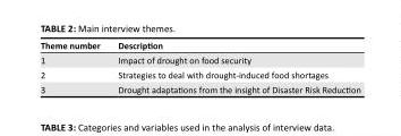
<table><thead><tr><td>Theme number</td><td>Description</td></tr></thead><tbody><tr><td>1</td><td>Impact of drought on food security</td></tr><tr><td>2</td><td>Strategies to deal with drought-induced food shortages</td></tr><tr><td>3</td><td>Drought adaptations from the insight of Disaster Risk Reduction</td></tr></tbody></table>